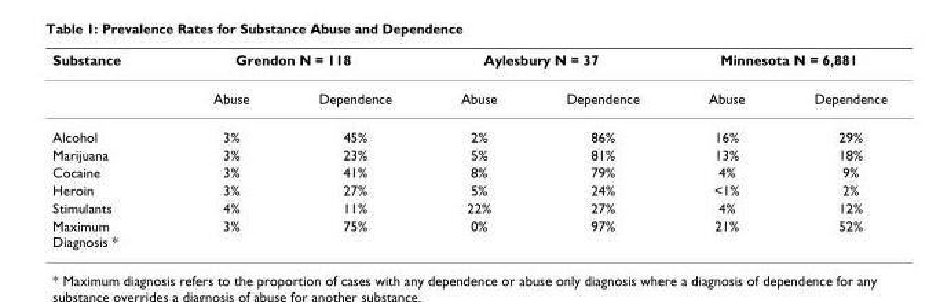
<table><thead><tr><td rowspan="2">Substance</td><td colspan="2">Grendon N = 118</td><td colspan="2">Aylesbury N = 37</td><td colspan="2">Minnesota N = 6,881</td></tr><tr><td>Abuse</td><td>Dependence</td><td>Abuse</td><td>Dependence</td><td>Abuse</td><td>Dependence</td></tr></thead><tbody><tr><td>Alcohol</td><td>3%</td><td>45%</td><td>2%</td><td>86%</td><td>16%</td><td>29%</td></tr><tr><td>Marijuana</td><td>3%</td><td>23%</td><td>5%</td><td>81%</td><td>13%</td><td>18%</td></tr><tr><td>Cocaine</td><td>3%</td><td>41%</td><td>8%</td><td>79%</td><td>4%</td><td>9%</td></tr><tr><td>Heroin</td><td>3%</td><td>27%</td><td>5%</td><td>24%</td><td>&lt;1%</td><td>2%</td></tr><tr><td>Stimulants</td><td>4%</td><td>11%</td><td>22%</td><td>27%</td><td>4%</td><td>12%</td></tr><tr><td>Maximum Diagnosis *</td><td>3%</td><td>75%</td><td>0%</td><td>97%</td><td>21%</td><td>52%</td></tr></tbody></table>